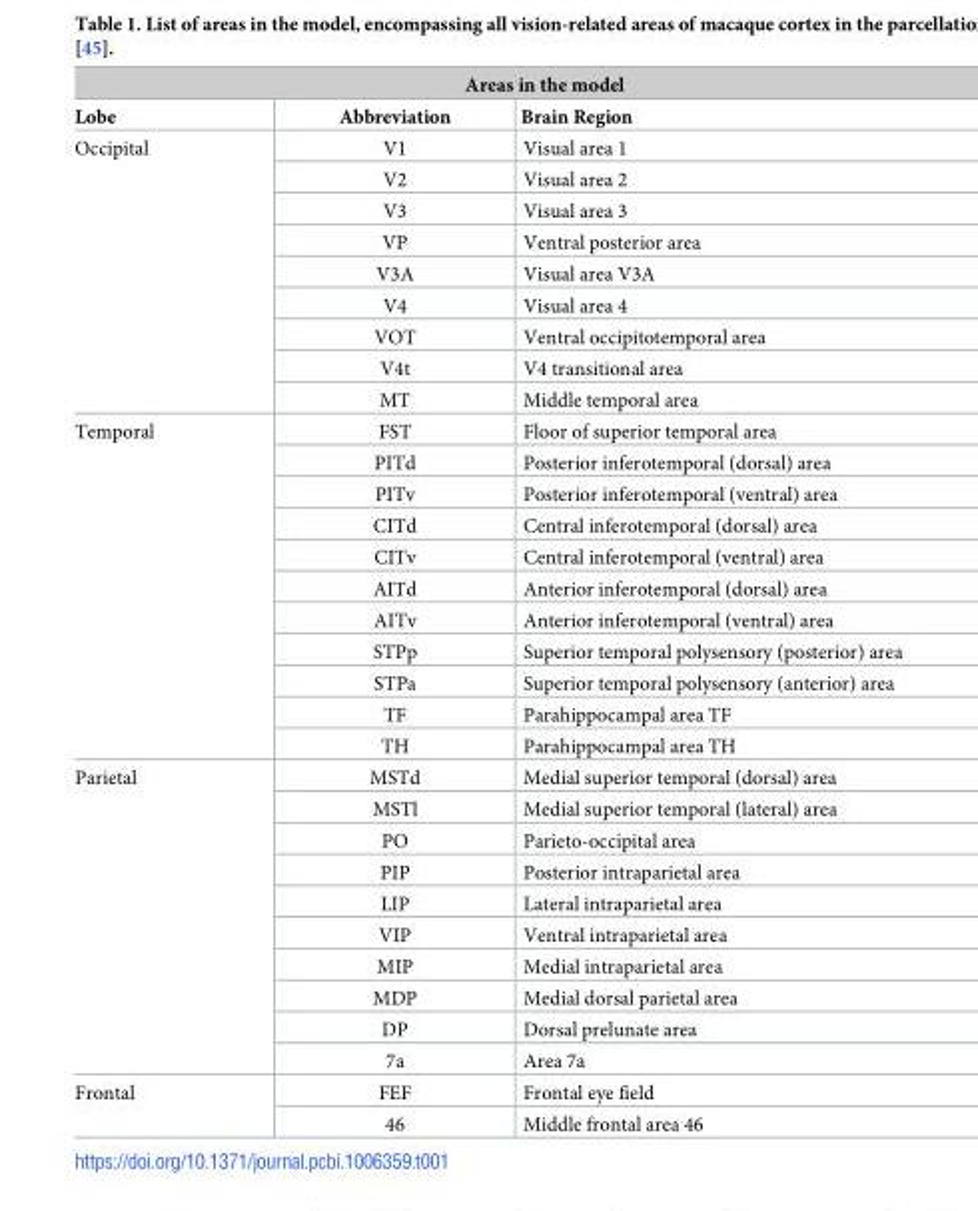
<table><thead><tr><td colspan="3">Areas in the model</td></tr><tr><td>Lobe</td><td>Abbreviation</td><td>Brain Region</td></tr></thead><tbody><tr><td rowspan="9">Occipital</td><td>V1</td><td>Visual area 1</td></tr><tr><td>V2</td><td>Visual area 2</td></tr><tr><td>V3</td><td>Visual area 3</td></tr><tr><td>VP</td><td>Ventral posterior area</td></tr><tr><td>V3A</td><td>Visual area V3A</td></tr><tr><td>V4</td><td>Visual area 4</td></tr><tr><td>VOT</td><td>Ventral occipitotemporal area</td></tr><tr><td>V4t</td><td>V4 transitional area</td></tr><tr><td>MT</td><td>Middle temporal area</td></tr><tr><td rowspan="11">Temporal</td><td>FST</td><td>Floor of superior temporal area</td></tr><tr><td>PITd</td><td>Posterior inferotemporal (dorsal) area</td></tr><tr><td>PITv</td><td>Posterior inferotemporal (ventral) area</td></tr><tr><td>CITd</td><td>Central inferotemporal (dorsal) area</td></tr><tr><td>CITv</td><td>Central inferotemporal (ventral) area</td></tr><tr><td>AITd</td><td>Anterior inferotemporal (dorsal) area</td></tr><tr><td>AITv</td><td>Anterior inferotemporal (ventral) area</td></tr><tr><td>STPp</td><td>Superior temporal polysensory (posterior) area</td></tr><tr><td>STPa</td><td>Superior temporal polysensory (anterior) area</td></tr><tr><td>TF</td><td>Parahippocampal area TF</td></tr><tr><td>TH</td><td>Parahippocampal area TH</td></tr><tr><td rowspan="10">Parietal</td><td>MSTd</td><td>Medial superior temporal (dorsal) area</td></tr><tr><td>MSTl</td><td>Medial superior temporal (lateral) area</td></tr><tr><td>PO</td><td>Parieto-occipital area</td></tr><tr><td>PIP</td><td>Posterior intraparietal area</td></tr><tr><td>LIP</td><td>Lateral intraparietal area</td></tr><tr><td>VIP</td><td>Ventral intraparietal area</td></tr><tr><td>MIP</td><td>Medial intraparietal area</td></tr><tr><td>MDP</td><td>Medial dorsal parietal area</td></tr><tr><td>DP</td><td>Dorsal prelunate area</td></tr><tr><td>7a</td><td>Area 7a</td></tr><tr><td rowspan="2">Frontal</td><td>FEF</td><td>Frontal eye field</td></tr><tr><td>46</td><td>Middle frontal area 46</td></tr></tbody></table>